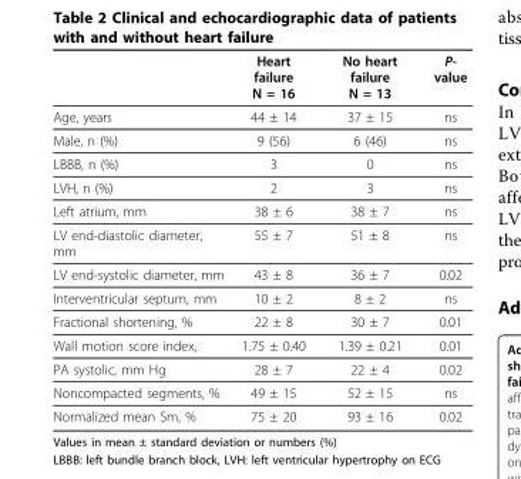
<table><thead><tr><td></td><td>Heart failure N = 16</td><td>No heart failure N = 13</td><td>P- value</td></tr></thead><tbody><tr><td>Age, years</td><td>44 ± 14</td><td>37 ± 15</td><td>ns</td></tr><tr><td>Male, n (%)</td><td>9 (56)</td><td>6 (46)</td><td>ns</td></tr><tr><td>LBBB, n (%)</td><td>3</td><td>0</td><td>ns</td></tr><tr><td>LVH, n (%)</td><td>2</td><td>3</td><td>ns</td></tr><tr><td>Left atrium, mm</td><td>38 ± 6</td><td>38 ± 7</td><td>ns</td></tr><tr><td>LV end-diastolic diameter, mm</td><td>55 ± 7</td><td>51 ± 8</td><td>ns</td></tr><tr><td>LV end-systolic diameter, mm</td><td>43 ± 8</td><td>36 ± 7</td><td>0.02</td></tr><tr><td>Interventricular septum, mm</td><td>10 ± 2</td><td>8 ± 2</td><td>ns</td></tr><tr><td>Fractional shortening, %</td><td>22 ± 8</td><td>30 ± 7</td><td>0.01</td></tr><tr><td>Wall motion score index,</td><td>1.75 ± 0.40</td><td>1.39 ± 0.21</td><td>0.01</td></tr><tr><td>PA systolic, mm Hg</td><td>28 ± 7</td><td>22 ± 4</td><td>0.02</td></tr><tr><td>Noncompacted segments, %</td><td>49 ± 15</td><td>52 ± 15</td><td>ns</td></tr><tr><td>Normalized mean Sm, %</td><td>75 ± 20</td><td>93 ± 16</td><td>0.02</td></tr></tbody></table>